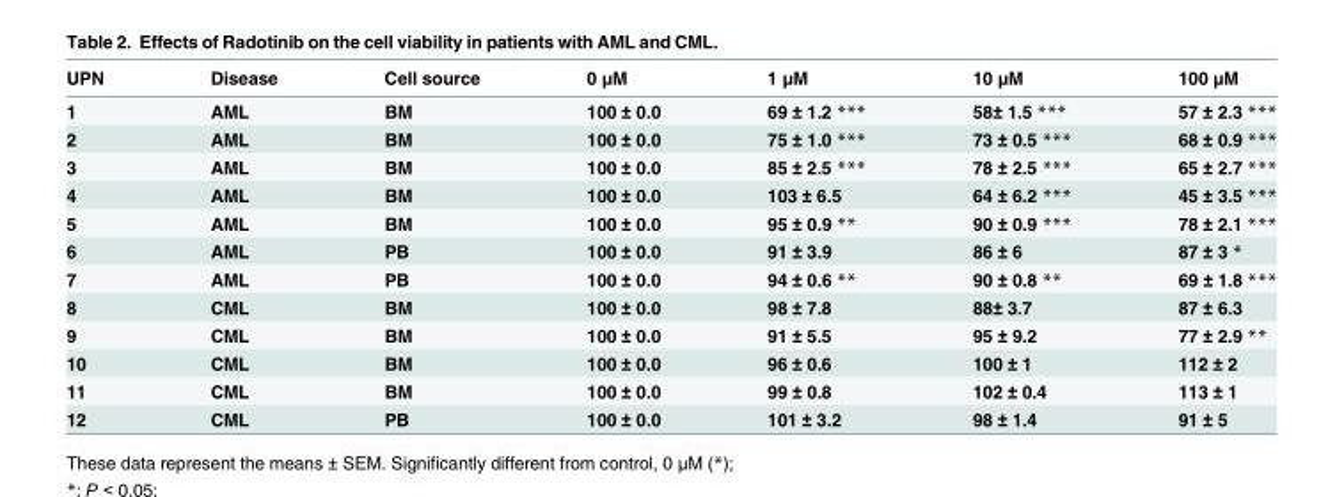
<table><thead><tr><td>UPN</td><td>Disease</td><td>Cell source</td><td>0 μM</td><td>1 μM</td><td>10 μM</td><td>100 μM</td></tr></thead><tbody><tr><td>1</td><td>AML</td><td>BM</td><td>100 ± 0.0</td><td>69 ± 1.2 ***</td><td>58± 1.5 ***</td><td>57 ± 2.3 ***</td></tr><tr><td>2</td><td>AML</td><td>BM</td><td>100 ± 0.0</td><td>75 ± 1.0 ***</td><td>73 ± 0.5 ***</td><td>68 ± 0.9 ***</td></tr><tr><td>3</td><td>AML</td><td>BM</td><td>100 ± 0.0</td><td>85 ± 2.5 ***</td><td>78 ± 2.5 ***</td><td>65 ± 2.7 ***</td></tr><tr><td>4</td><td>AML</td><td>BM</td><td>100 ± 0.0</td><td>103 ± 6.5</td><td>64 ± 6.2 ***</td><td>45 ± 3.5 ***</td></tr><tr><td>5</td><td>AML</td><td>BM</td><td>100 ± 0.0</td><td>95 ± 0.9 **</td><td>90 ± 0.9 ***</td><td>78 ± 2.1 ***</td></tr><tr><td>6</td><td>AML</td><td>PB</td><td>100 ± 0.0</td><td>91 ± 3.9</td><td>86 ± 6</td><td>87 ± 3 *</td></tr><tr><td>7</td><td>AML</td><td>PB</td><td>100 ± 0.0</td><td>94 ± 0.6 **</td><td>90 ± 0.8 **</td><td>69 ± 1.8 ***</td></tr><tr><td>8</td><td>CML</td><td>BM</td><td>100 ± 0.0</td><td>98 ± 7.8</td><td>88± 3.7</td><td>87 ± 6.3</td></tr><tr><td>9</td><td>CML</td><td>BM</td><td>100 ± 0.0</td><td>91 ± 5.5</td><td>95 ± 9.2</td><td>77 ± 2.9 **</td></tr><tr><td>10</td><td>CML</td><td>BM</td><td>100 ± 0.0</td><td>96 ± 0.6</td><td>100 ± 1</td><td>112 ± 2</td></tr><tr><td>11</td><td>CML</td><td>BM</td><td>100 ± 0.0</td><td>99 ± 0.8</td><td>102 ± 0.4</td><td>113 ± 1</td></tr><tr><td>12</td><td>CML</td><td>PB</td><td>100 ± 0.0</td><td>101 ± 3.2</td><td>98 ± 1.4</td><td>91 ± 5</td></tr></tbody></table>